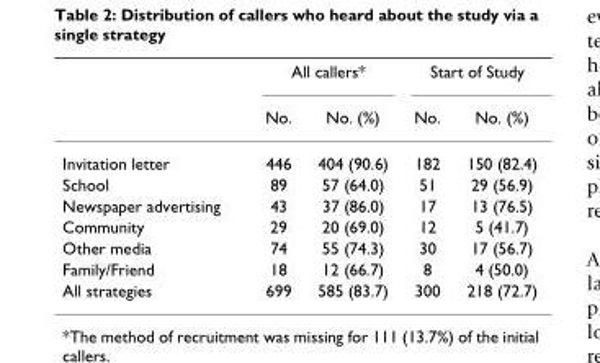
<table><thead><tr><td rowspan="2"></td><td colspan="2">All callers*</td><td colspan="2">Start of Study</td></tr><tr><td>No.</td><td>No. (%)</td><td>No.</td><td>No. (%)</td></tr></thead><tbody><tr><td>Invitation letter</td><td>446</td><td>404 (90.6)</td><td>182</td><td>150 (82.4)</td></tr><tr><td>School</td><td>89</td><td>57 (64.0)</td><td>51</td><td>29 (56.9)</td></tr><tr><td>Newspaper advertising</td><td>43</td><td>37 (86.0)</td><td>17</td><td>13 (76.5)</td></tr><tr><td>Community</td><td>29</td><td>20 (69.0)</td><td>12</td><td>5 (41.7)</td></tr><tr><td>Other media</td><td>74</td><td>55 (74.3)</td><td>30</td><td>17 (56.7)</td></tr><tr><td>Family/Friend</td><td>18</td><td>12 (66.7)</td><td>8</td><td>4 (50.0)</td></tr><tr><td>All strategies</td><td>699</td><td>585 (83.7)</td><td>300</td><td>218 (72.7)</td></tr></tbody></table>